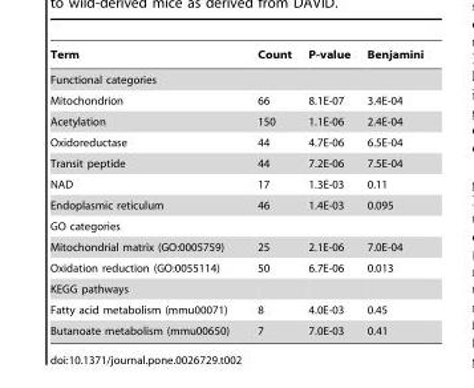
<table><thead><tr><td>Term</td><td>Count</td><td>P-value</td><td>Benjamini</td></tr></thead><tbody><tr><td colspan="4">Functional categories</td></tr><tr><td>Mitochondrion</td><td>66</td><td>8.1E-07</td><td>3.4E-04</td></tr><tr><td>Acetylation</td><td>150</td><td>1.1E-06</td><td>2.4E-04</td></tr><tr><td>Oxidoreductase</td><td>44</td><td>4.7E-06</td><td>6.5E-04</td></tr><tr><td>Transit peptide</td><td>44</td><td>7.2E-06</td><td>7.5E-04</td></tr><tr><td>NAD</td><td>17</td><td>1.3E-03</td><td>0.11</td></tr><tr><td>Endoplasmic reticulum</td><td>46</td><td>1.4E-03</td><td>0.095</td></tr><tr><td colspan="4">GO categories</td></tr><tr><td>Mitochondrial matrix (GO:0005759)</td><td>25</td><td>2.1E-06</td><td>7.0E-04</td></tr><tr><td>Oxidation reduction (GO:0055114)</td><td>50</td><td>6.7E-06</td><td>0.013</td></tr><tr><td colspan="4">KEGG pathways</td></tr><tr><td>Fatty acid metabolism (mmu00071)</td><td>8</td><td>4.0E-03</td><td>0.45</td></tr><tr><td>Butanoate metabolism (mmu00650)</td><td>7</td><td>7.0E-03</td><td>0.41</td></tr></tbody></table>